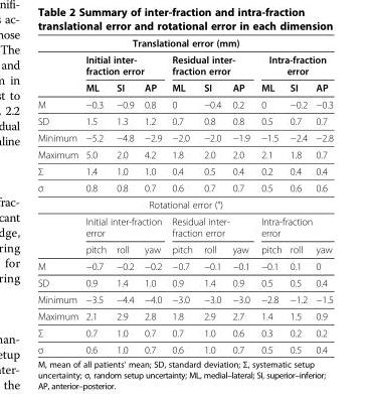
<table><thead><tr><td colspan="10">Translational error (mm)</td></tr><tr><td rowspan="2"></td><td colspan="3">Initial inter- fraction error</td><td colspan="3">Residual inter- fraction error</td><td colspan="3">Intra-fraction error</td></tr><tr><td>ML</td><td>SI</td><td>AP</td><td>ML</td><td>SI</td><td>AP</td><td>ML</td><td>SI</td><td>AP</td></tr></thead><tbody><tr><td>M</td><td>−0.3</td><td>−0.9</td><td>0.8</td><td>0</td><td>−0.4</td><td>0.2</td><td>0</td><td>−0.2</td><td>−0.3</td></tr><tr><td>SD</td><td>1.5</td><td>1.3</td><td>1.2</td><td>0.7</td><td>0.8</td><td>0.8</td><td>0.5</td><td>0.7</td><td>0.7</td></tr><tr><td>Minimum</td><td>−5.2</td><td>−4.8</td><td>−2.9</td><td>−2.0</td><td>−2.0</td><td>−1.9</td><td>−1.5</td><td>−2.4</td><td>−2.8</td></tr><tr><td>Maximum</td><td>5.0</td><td>2.0</td><td>4.2</td><td>1.8</td><td>2.0</td><td>2.0</td><td>2.1</td><td>1.8</td><td>0.7</td></tr><tr><td>Σ</td><td>1.4</td><td>1.0</td><td>1.0</td><td>0.4</td><td>0.5</td><td>0.4</td><td>0.2</td><td>0.4</td><td>0.4</td></tr><tr><td>σ</td><td>0.8</td><td>0.8</td><td>0.7</td><td>0.6</td><td>0.7</td><td>0.7</td><td>0.5</td><td>0.6</td><td>0.6</td></tr><tr><td colspan="10">Rotational error (°)</td></tr><tr><td rowspan="2"></td><td colspan="3">Initial inter-fraction error</td><td colspan="3">Residual inter- fraction error</td><td colspan="3">Intra-fraction error</td></tr><tr><td>pitch</td><td>roll</td><td>yaw</td><td>pitch</td><td>roll</td><td>yaw</td><td>pitch</td><td>roll</td><td>yaw</td></tr><tr><td>M</td><td>−0.7</td><td>−0.2</td><td>−0.2</td><td>−0.7</td><td>−0.1</td><td>−0.1</td><td>−0.1</td><td>0.1</td><td>0</td></tr><tr><td>SD</td><td>0.9</td><td>1.4</td><td>1.0</td><td>0.9</td><td>1.4</td><td>0.9</td><td>0.5</td><td>0.5</td><td>0.4</td></tr><tr><td>Minimum</td><td>−3.5</td><td>−4.4</td><td>−4.0</td><td>−3.0</td><td>−3.0</td><td>−3.0</td><td>−2.8</td><td>−1.2</td><td>−1.5</td></tr><tr><td>Maximum</td><td>2.1</td><td>2.9</td><td>2.8</td><td>1.8</td><td>2.9</td><td>2.7</td><td>1.4</td><td>1.5</td><td>0.9</td></tr><tr><td>Σ</td><td>0.7</td><td>1.0</td><td>0.7</td><td>0.7</td><td>1.0</td><td>0.6</td><td>0.3</td><td>0.2</td><td>0.2</td></tr><tr><td>σ</td><td>0.6</td><td>1.0</td><td>0.7</td><td>0.6</td><td>1.0</td><td>0.7</td><td>0.5</td><td>0.5</td><td>0.4</td></tr></tbody></table>